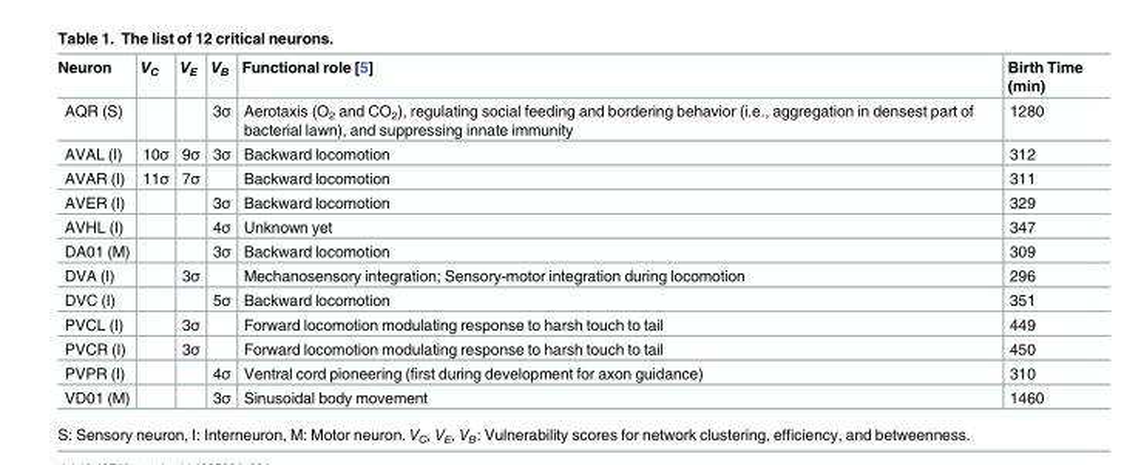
<table><thead><tr><td>Neuron</td><td>V<sub>C</sub></td><td>V<sub>E</sub></td><td>V<sub>B</sub></td><td>Functional role [5]</td><td>Birth Time (min)</td></tr></thead><tbody><tr><td>AQR (S)</td><td></td><td></td><td>3σ</td><td>Aerotaxis (O<sub>2</sub> and CO<sub>2</sub>), regulating social feeding and bordering behavior (i.e., aggregation in densest part of bacterial lawn), and suppressing innate immunity</td><td>1280</td></tr><tr><td>AVAL (I)</td><td>10σ</td><td>9σ</td><td>3σ</td><td>Backward locomotion</td><td>312</td></tr><tr><td>AVAR (I)</td><td>11σ</td><td>7σ</td><td></td><td>Backward locomotion</td><td>311</td></tr><tr><td>AVER (I)</td><td></td><td></td><td>3σ</td><td>Backward locomotion</td><td>329</td></tr><tr><td>AVHL (I)</td><td></td><td></td><td>4σ</td><td>Unknown yet</td><td>347</td></tr><tr><td>DA01 (M)</td><td></td><td></td><td>3σ</td><td>Backward locomotion</td><td>309</td></tr><tr><td>DVA (I)</td><td></td><td>3σ</td><td></td><td>Mechanosensory integration; Sensory-motor integration during locomotion</td><td>296</td></tr><tr><td>DVC (I)</td><td></td><td></td><td>5σ</td><td>Backward locomotion</td><td>351</td></tr><tr><td>PVCL (I)</td><td></td><td>3σ</td><td></td><td>Forward locomotion modulating response to harsh touch to tail</td><td>449</td></tr><tr><td>PVCR (I)</td><td></td><td>3σ</td><td></td><td>Forward locomotion modulating response to harsh touch to tail</td><td>450</td></tr><tr><td>PVPR (I)</td><td></td><td></td><td>4σ</td><td>Ventral cord pioneering (first during development for axon guidance)</td><td>310</td></tr><tr><td>VD01 (M)</td><td></td><td></td><td>3σ</td><td>Sinusoidal body movement</td><td>1460</td></tr></tbody></table>